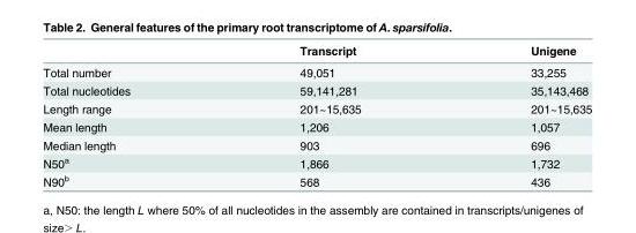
<table><thead><tr><td></td><td>Transcript</td><td>Unigene</td></tr></thead><tbody><tr><td>Total number</td><td>49,051</td><td>33,255</td></tr><tr><td>Total nucleotides</td><td>59,141,281</td><td>35,143,468</td></tr><tr><td>Length range</td><td>201~15,635</td><td>201~15,635</td></tr><tr><td>Mean length</td><td>1,206</td><td>1,057</td></tr><tr><td>Median length</td><td>903</td><td>696</td></tr><tr><td>N50<sup>a</sup></td><td>1,866</td><td>1,732</td></tr><tr><td>N90<sup>b</sup></td><td>568</td><td>436</td></tr></tbody></table>